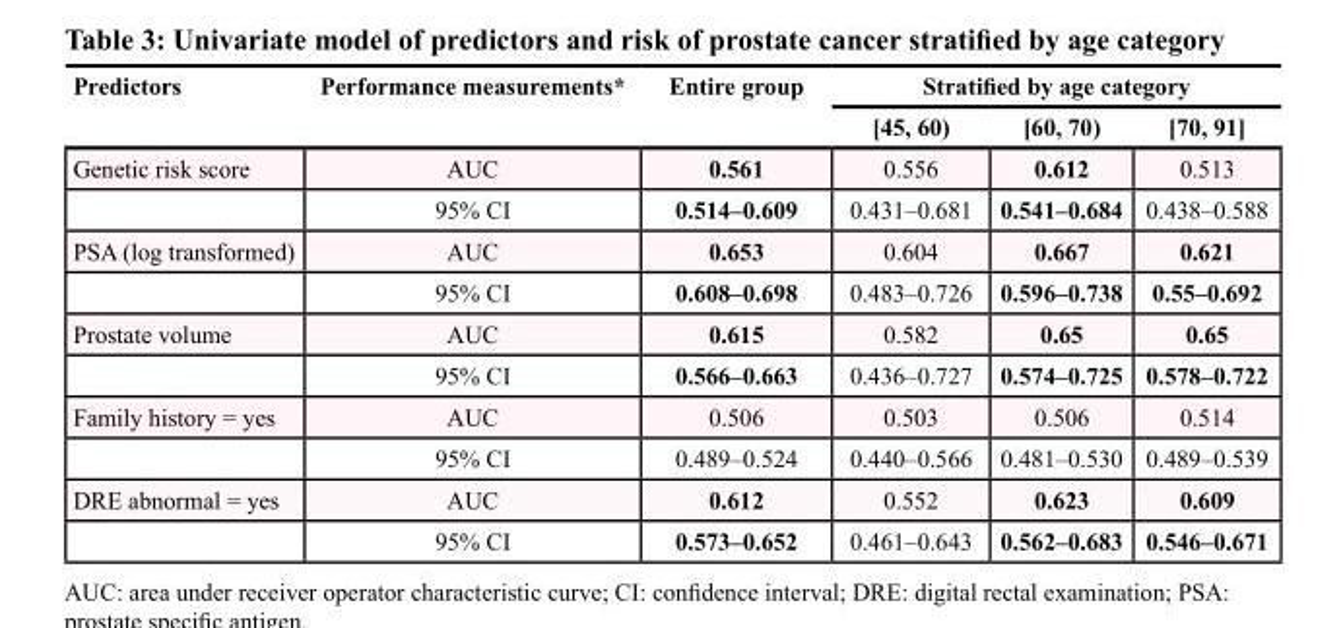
<table><thead><tr><td rowspan="2">Predictors</td><td rowspan="2">Performance measurements*</td><td rowspan="2">Entire group</td><td colspan="3">Stratified by age category</td></tr><tr><td>[45, 60)</td><td>[60, 70)</td><td>[70, 91]</td></tr></thead><tbody><tr><td rowspan="2">Genetic risk score</td><td>AUC</td><td>0.561</td><td>0.556</td><td>0.612</td><td>0.513</td></tr><tr><td>95% CI</td><td>0.514–0.609</td><td>0.431–0.681</td><td>0.541–0.684</td><td>0.438–0.588</td></tr><tr><td rowspan="2">PSA (log transformed)</td><td>AUC</td><td>0.653</td><td>0.604</td><td>0.667</td><td>0.621</td></tr><tr><td>95% CI</td><td>0.608–0.698</td><td>0.483–0.726</td><td>0.596–0.738</td><td>0.55–0.692</td></tr><tr><td rowspan="2">Prostate volume</td><td>AUC</td><td>0.615</td><td>0.582</td><td>0.65</td><td>0.65</td></tr><tr><td>95% CI</td><td>0.566–0.663</td><td>0.436–0.727</td><td>0.574–0.725</td><td>0.578–0.722</td></tr><tr><td rowspan="2">Family history = yes</td><td>AUC</td><td>0.506</td><td>0.503</td><td>0.506</td><td>0.514</td></tr><tr><td>95% CI</td><td>0.489–0.524</td><td>0.440–0.566</td><td>0.481–0.530</td><td>0.489–0.539</td></tr><tr><td rowspan="2">DRE abnormal = yes</td><td>AUC</td><td>0.612</td><td>0.552</td><td>0.623</td><td>0.609</td></tr><tr><td>95% CI</td><td>0.573–0.652</td><td>0.461–0.643</td><td>0.562–0.683</td><td>0.546–0.671</td></tr></tbody></table>